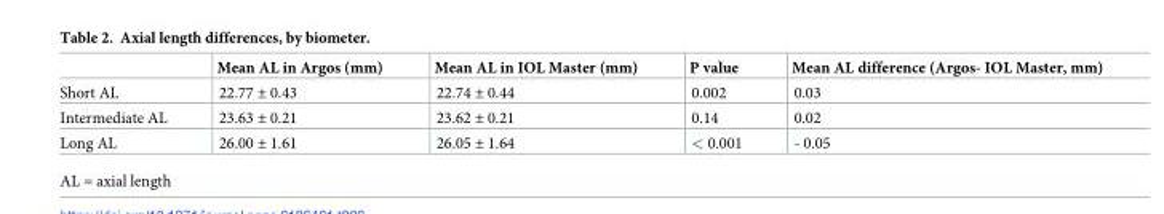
<table><thead><tr><td></td><td>Mean AL in Argos (mm)</td><td>Mean AL in IOL Master (mm)</td><td>P value</td><td>Mean AL difference (Argos- IOL Master, mm)</td></tr></thead><tbody><tr><td>Short AL</td><td>22.77 ± 0.43</td><td>22.74 ± 0.44</td><td>0.002</td><td>0.03</td></tr><tr><td>Intermediate AL</td><td>23.63 ± 0.21</td><td>23.62 ± 0.21</td><td>0.14</td><td>0.02</td></tr><tr><td>Long AL</td><td>26.00 ± 1.61</td><td>26.05 ± 1.64</td><td>&lt; 0.001</td><td>- 0.05</td></tr></tbody></table>